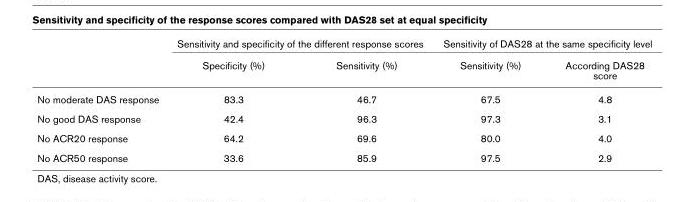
<table><thead><tr><td rowspan="2"></td><td colspan="2">Sensitivity and specificity of the different response scores</td><td colspan="2">Sensitivity of DAS28 at the same specificity level</td></tr><tr><td>Specificity (%)</td><td>Sensitivity (%)</td><td>Sensitivity (%)</td><td>According DAS28 score</td></tr></thead><tbody><tr><td>No moderate DAS response</td><td>83.3</td><td>46.7</td><td>67.5</td><td>4.8</td></tr><tr><td>No good DAS response</td><td>42.4</td><td>96.3</td><td>97.3</td><td>3.1</td></tr><tr><td>No ACR20 response</td><td>64.2</td><td>69.6</td><td>80.0</td><td>4.0</td></tr><tr><td>No ACR50 response</td><td>33.6</td><td>85.9</td><td>97.5</td><td>2.9</td></tr></tbody></table>